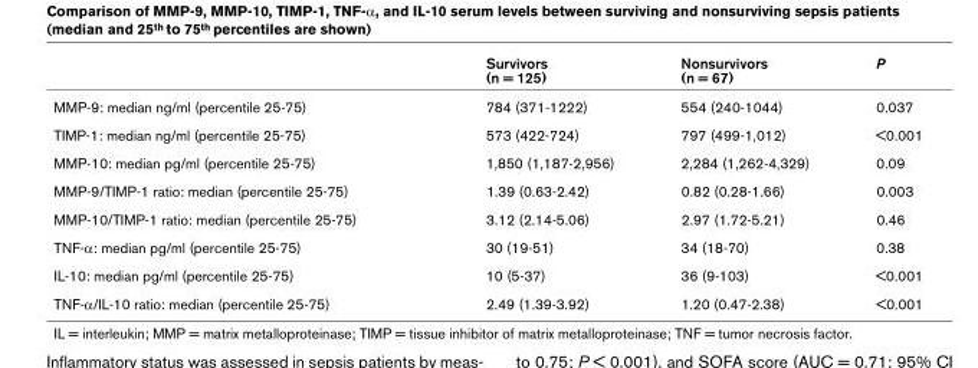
<table><thead><tr><td></td><td>Survivors (n = 125)</td><td>Nonsurvivors (n = 67)</td><td>P</td></tr></thead><tbody><tr><td>MMP-9: median ng/ml (percentile 25-75)</td><td>784 (371-1222)</td><td>554 (240-1044)</td><td>0.037</td></tr><tr><td>TIMP-1: median ng/ml (percentile 25-75)</td><td>573 (422-724)</td><td>797 (499-1,012)</td><td>&lt;0.001</td></tr><tr><td>MMP-10: median pg/ml (percentile 25-75)</td><td>1,850 (1,187-2,956)</td><td>2,284 (1,262-4,329)</td><td>0.09</td></tr><tr><td>MMP-9/TIMP-1 ratio: median (percentile 25-75)</td><td>1.39 (0.63-2.42)</td><td>0.82 (0.28-1.66)</td><td>0.003</td></tr><tr><td>MMP-10/TIMP-1 ratio: median (percentile 25-75)</td><td>3.12 (2.14-5.06)</td><td>2.97 (1.72-5.21)</td><td>0.46</td></tr><tr><td>TNF-α: median pg/ml (percentile 25-75)</td><td>30 (19-51)</td><td>34 (18-70)</td><td>0.38</td></tr><tr><td>IL-10: median pg/ml (percentile 25-75)</td><td>10 (5-37)</td><td>36 (9-103)</td><td>&lt;0.001</td></tr><tr><td>TNF-α/IL-10 ratio: median (percentile 25-75)</td><td>2.49 (1.39-3.92)</td><td>1.20 (0.47-2.38)</td><td>&lt;0.001</td></tr></tbody></table>